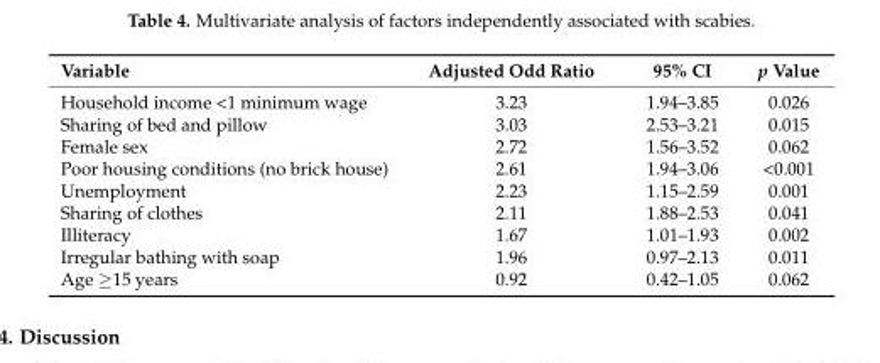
<table><thead><tr><td>Variable</td><td>Adjusted Odd Ratio</td><td>95% CI</td><td>p Value</td></tr></thead><tbody><tr><td>Household income &lt;1 minimum wage</td><td>3.23</td><td>1.94–3.85</td><td>0.026</td></tr><tr><td>Sharing of bed and pillow</td><td>3.03</td><td>2.53–3.21</td><td>0.015</td></tr><tr><td>Female sex</td><td>2.72</td><td>1.56–3.52</td><td>0.062</td></tr><tr><td>Poor housing conditions (no brick house)</td><td>2.61</td><td>1.94–3.06</td><td>&lt;0.001</td></tr><tr><td>Unemployment</td><td>2.23</td><td>1.15–2.59</td><td>0.001</td></tr><tr><td>Sharing of clothes</td><td>2.11</td><td>1.88–2.53</td><td>0.041</td></tr><tr><td>Illiteracy</td><td>1.67</td><td>1.01–1.93</td><td>0.002</td></tr><tr><td>Irregular bathing with soap</td><td>1.96</td><td>0.97–2.13</td><td>0.011</td></tr><tr><td>Age ≥15 years</td><td>0.92</td><td>0.42–1.05</td><td>0.062</td></tr></tbody></table>